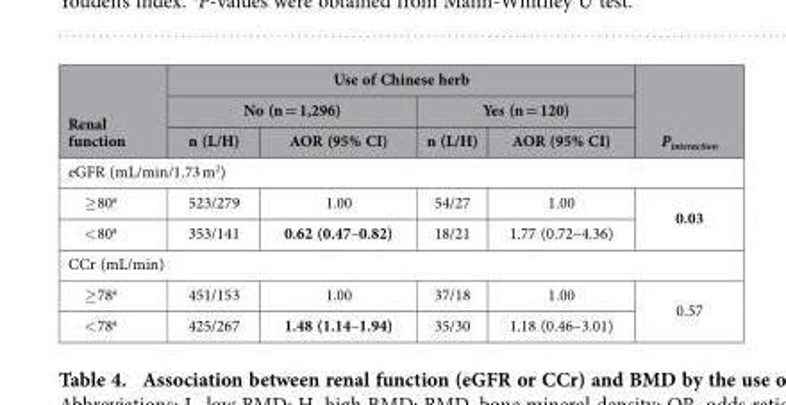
<table><thead><tr><td rowspan="3">Renal function</td><td colspan="4">Use of Chinese herb</td><td rowspan="3">P<sub>interaction</sub></td></tr><tr><td colspan="2">No (n = 1,296)</td><td colspan="2">Yes (n = 120)</td></tr><tr><td>n (L/H)</td><td>AOR (95% CI)</td><td>n (L/H)</td><td>AOR (95% CI)</td></tr></thead><tbody><tr><td colspan="6">eGFR (mL/min/1.73 m<sup>2</sup>)</td></tr><tr><td>≥ 80<sup>a</sup></td><td>523/279</td><td>1.00</td><td>54/27</td><td>1.00</td><td rowspan="2">0.03</td></tr><tr><td>&lt; 80<sup>a</sup></td><td>353/141</td><td>0.62 (0.47–0.82)</td><td>18/21</td><td>1.77 (0.72–4.36)</td></tr><tr><td colspan="6">CCr (mL/min)</td></tr><tr><td>≥ 78<sup>a</sup></td><td>451/153</td><td>1.00</td><td>37/18</td><td>1.00</td><td rowspan="2">0.57</td></tr><tr><td>&lt; 78<sup>a</sup></td><td>425/267</td><td>1.48 (1.14–1.94)</td><td>35/30</td><td>1.18 (0.46–3.01)</td></tr></tbody></table>